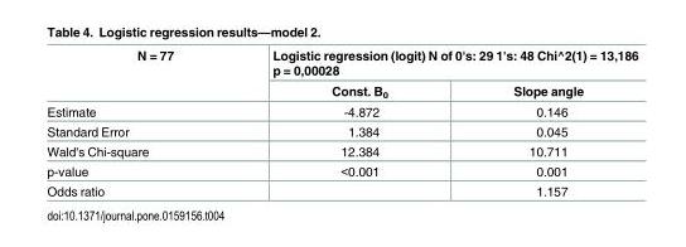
<table><thead><tr><td rowspan="2">N = 77</td><td colspan="2">Logistic regression (logit) N of 0&#x27;s: 29 1&#x27;s: 48 Chi^2(1) = 13,186 p = 0,00028</td></tr><tr><td>Const. B<sub>0</sub></td><td>Slope angle</td></tr></thead><tbody><tr><td>Estimate</td><td>-4.872</td><td>0.146</td></tr><tr><td>Standard Error</td><td>1.384</td><td>0.045</td></tr><tr><td>Wald&#x27;s Chi-square</td><td>12.384</td><td>10.711</td></tr><tr><td>p-value</td><td>&lt;0.001</td><td>0.001</td></tr><tr><td>Odds ratio</td><td></td><td>1.157</td></tr></tbody></table>